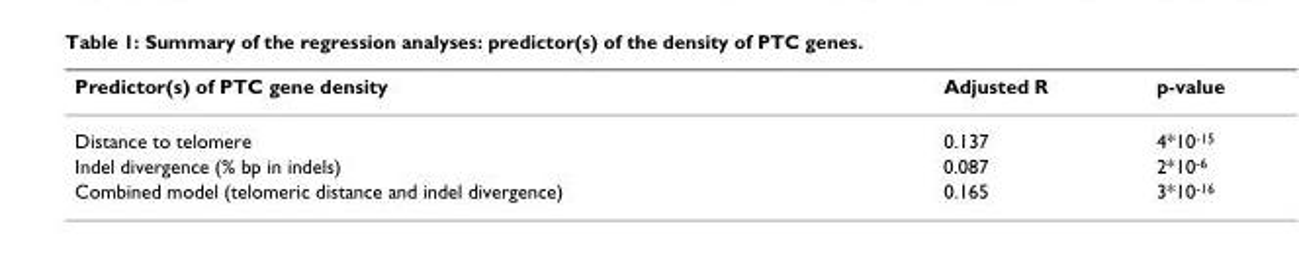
<table><thead><tr><td>Predictor(s) of PTC gene density</td><td>Adjusted R</td><td>p-value</td></tr></thead><tbody><tr><td>Distance to telomere</td><td>0.137</td><td>4*10<sup>-15</sup></td></tr><tr><td>Indel divergence (% bp in indels)</td><td>0.087</td><td>2*10<sup>-6</sup></td></tr><tr><td>Combined model (telomeric distance and indel divergence)</td><td>0.165</td><td>3*10<sup>-16</sup></td></tr></tbody></table>